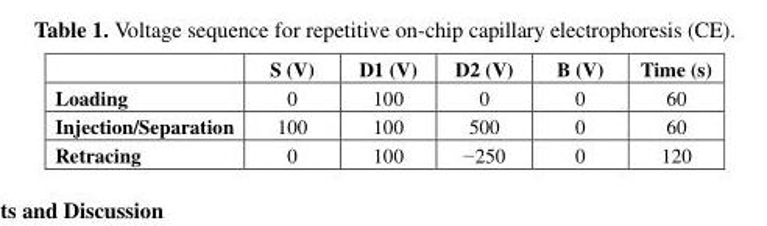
<table><thead><tr><td></td><td>S (V)</td><td>D1 (V)</td><td>D2 (V)</td><td>B (V)</td><td>Time (s)</td></tr></thead><tbody><tr><td>Loading</td><td>0</td><td>100</td><td>0</td><td>0</td><td>60</td></tr><tr><td>Injection/Separation</td><td>100</td><td>100</td><td>500</td><td>0</td><td>60</td></tr><tr><td>Retracing</td><td>0</td><td>100</td><td>−250</td><td>0</td><td>120</td></tr></tbody></table>